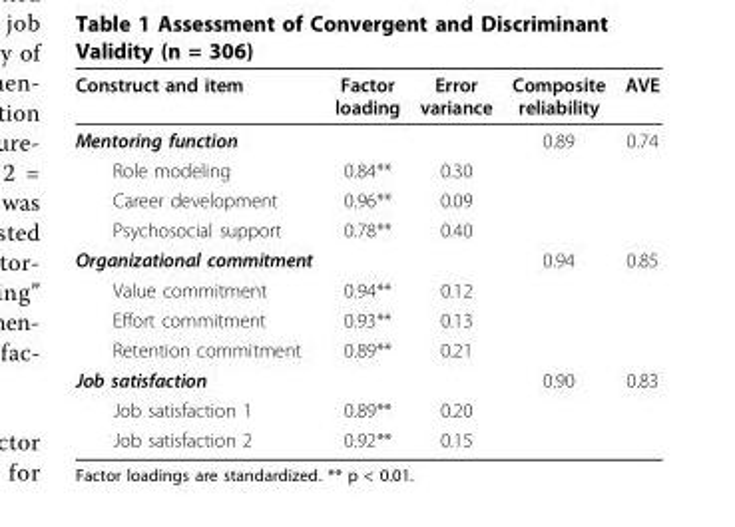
<table><thead><tr><td>Construct and item</td><td>Factor loading</td><td>Error variance</td><td>Composite reliability</td><td>AVE</td></tr></thead><tbody><tr><td>Mentoring function</td><td></td><td></td><td>0.89</td><td>0.74</td></tr><tr><td>Role modeling</td><td>0.84**</td><td>0.30</td><td></td><td></td></tr><tr><td>Career development</td><td>0.96**</td><td>0.09</td><td></td><td></td></tr><tr><td>Psychosocial support</td><td>0.78**</td><td>0.40</td><td></td><td></td></tr><tr><td>Organizational commitment</td><td></td><td></td><td>0.94</td><td>0.85</td></tr><tr><td>Value commitment</td><td>0.94**</td><td>0.12</td><td></td><td></td></tr><tr><td>Effort commitment</td><td>0.93**</td><td>0.13</td><td></td><td></td></tr><tr><td>Retention commitment</td><td>0.89**</td><td>0.21</td><td></td><td></td></tr><tr><td>Job satisfaction</td><td></td><td></td><td>0.90</td><td>0.83</td></tr><tr><td>Job satisfaction 1</td><td>0.89**</td><td>0.20</td><td></td><td></td></tr><tr><td>Job satisfaction 2</td><td>0.92**</td><td>0.15</td><td></td><td></td></tr></tbody></table>